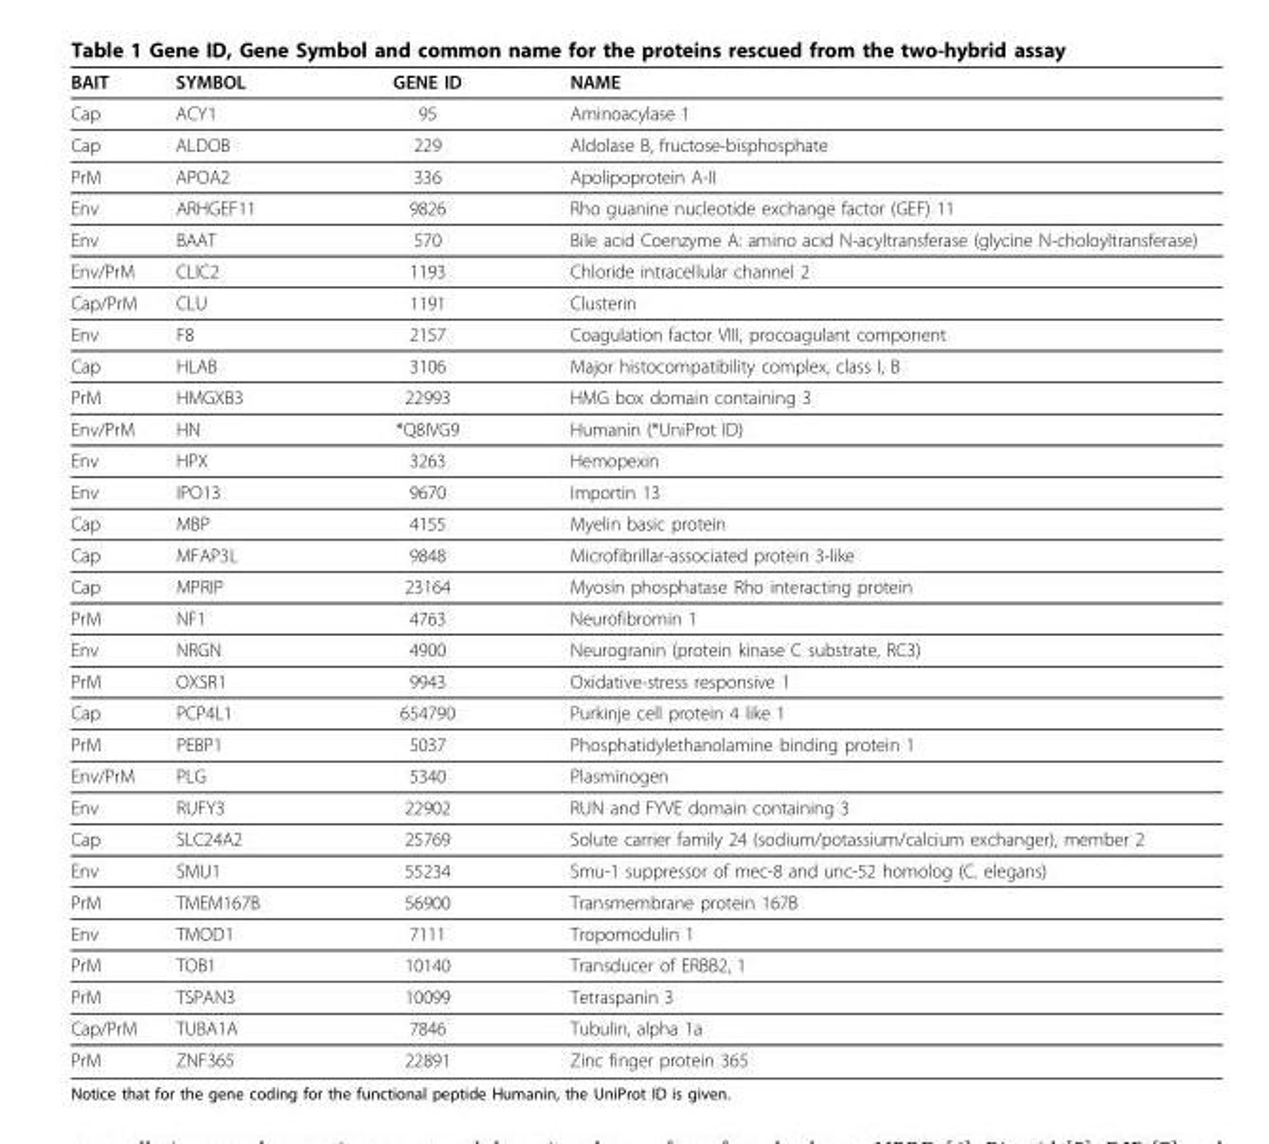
<table><thead><tr><td>BAIT</td><td>SYMBOL</td><td>GENE ID</td><td>NAME</td></tr></thead><tbody><tr><td>Cap</td><td>ACY1</td><td>95</td><td>Aminoacylase 1</td></tr><tr><td>Cap</td><td>ALDOB</td><td>229</td><td>Aldolase B, fructose-bisphosphate</td></tr><tr><td>PrM</td><td>APOA2</td><td>336</td><td>Apolipoprotein A-II</td></tr><tr><td>Env</td><td>ARHGEF11</td><td>9826</td><td>Rho guanine nucleotide exchange factor (GEF) 11</td></tr><tr><td>Env</td><td>BAAT</td><td>570</td><td>Bile acid Coenzyme A: amino acid N-acyltransferase (glycine N-choloyltransferase)</td></tr><tr><td>Env/PrM</td><td>CLIC2</td><td>1193</td><td>Chloride intracellular channel 2</td></tr><tr><td>Cap/PrM</td><td>CLU</td><td>1191</td><td>Clusterin</td></tr><tr><td>Env</td><td>F8</td><td>2157</td><td>Coagulation factor VIII, procoagulant component</td></tr><tr><td>Cap</td><td>HLAB</td><td>3106</td><td>Major histocompatibility complex, class I, B</td></tr><tr><td>PrM</td><td>HMGXB3</td><td>22993</td><td>HMG box domain containing 3</td></tr><tr><td>Env/PrM</td><td>HN</td><td>*Q8IVG9</td><td>Humanin (*UniProt ID)</td></tr><tr><td>Env</td><td>HPX</td><td>3263</td><td>Hemopexin</td></tr><tr><td>Env</td><td>IPO13</td><td>9670</td><td>Importin 13</td></tr><tr><td>Cap</td><td>MBP</td><td>4155</td><td>Myelin basic protein</td></tr><tr><td>Cap</td><td>MFAP3L</td><td>9848</td><td>Microfibrillar-associated protein 3-like</td></tr><tr><td>Cap</td><td>MPRIP</td><td>23164</td><td>Myosin phosphatase Rho interacting protein</td></tr><tr><td>PrM</td><td>NF1</td><td>4763</td><td>Neurofibromin 1</td></tr><tr><td>Env</td><td>NRGN</td><td>4900</td><td>Neurogranin (protein kinase C substrate, RC3)</td></tr><tr><td>PrM</td><td>OXSR1</td><td>9943</td><td>Oxidative-stress responsive 1</td></tr><tr><td>Cap</td><td>PCP4L1</td><td>654790</td><td>Purkinje cell protein 4 like 1</td></tr><tr><td>PrM</td><td>PEBP1</td><td>5037</td><td>Phosphatidylethanolamine binding protein 1</td></tr><tr><td>Env/PrM</td><td>PLG</td><td>5340</td><td>Plasminogen</td></tr><tr><td>Env</td><td>RUFY3</td><td>22902</td><td>RUN and FYVE domain containing 3</td></tr><tr><td>Cap</td><td>SLC24A2</td><td>25769</td><td>Solute carrier family 24 (sodium/potassium/calcium exchanger), member 2</td></tr><tr><td>Env</td><td>SMU1</td><td>55234</td><td>Smu-1 suppressor of mec-8 and unc-52 homolog (C. elegans)</td></tr><tr><td>PrM</td><td>TMEM167B</td><td>56900</td><td>Transmembrane protein 167B</td></tr><tr><td>Env</td><td>TMOD1</td><td>7111</td><td>Tropomodulin 1</td></tr><tr><td>PrM</td><td>TOB1</td><td>10140</td><td>Transducer of ERBB2, 1</td></tr><tr><td>PrM</td><td>TSPAN3</td><td>10099</td><td>Tetraspanin 3</td></tr><tr><td>Cap/PrM</td><td>TUBA1A</td><td>7846</td><td>Tubulin, alpha 1a</td></tr><tr><td>PrM</td><td>ZNF365</td><td>22891</td><td>Zinc finger protein 365</td></tr></tbody></table>